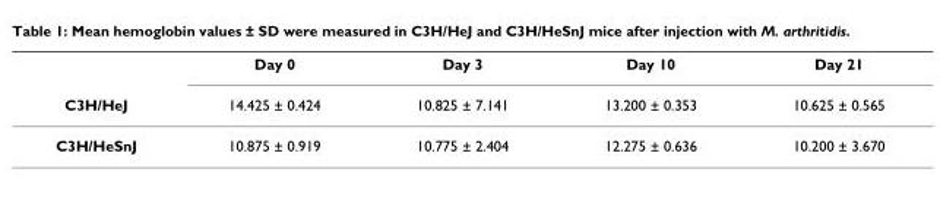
<table><thead><tr><td rowspan="2">C3H/HeJ</td><td rowspan="2">Day 0 14.425 ± 0.424</td><td rowspan="2">Day 3 10.825 ± 7.141</td><td rowspan="2">Day 10 13.200 ± 0.353</td><td rowspan="2">Day 21 10.625 ± 0.565</td></tr><tr></tr></thead><tbody><tr><td>C3H/HeSnJ</td><td>10.875 ± 0.919</td><td>10.775 ± 2.404</td><td>12.275 ± 0.636</td><td>10.200 ± 3.670</td></tr></tbody></table>